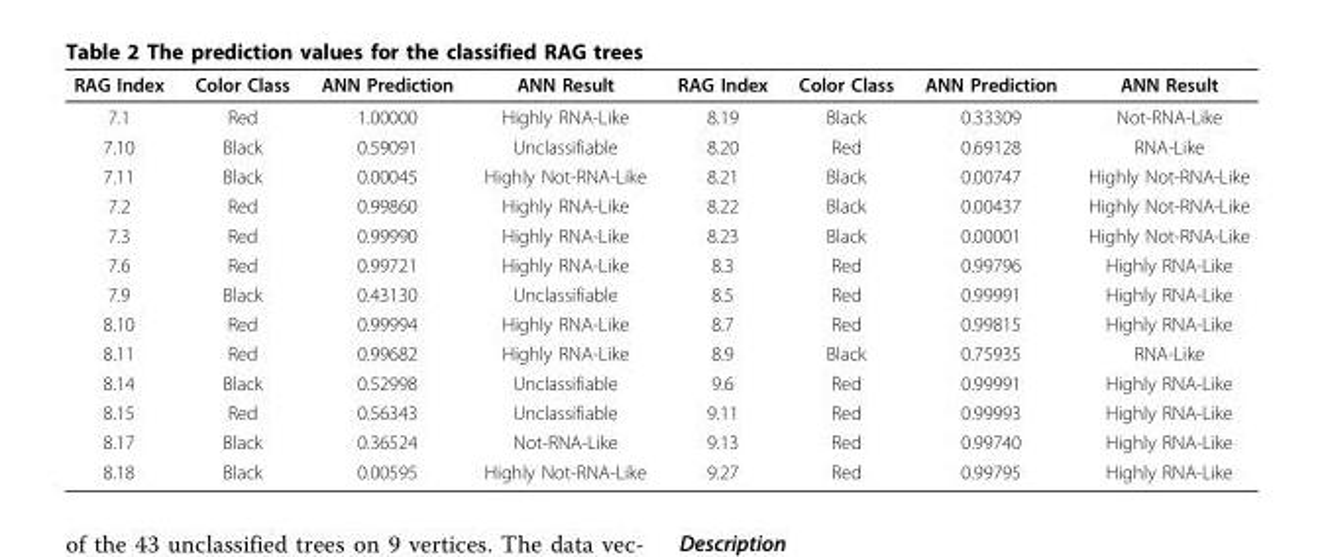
<table><thead><tr><td>RAG Index</td><td>Color Class</td><td>ANN Prediction</td><td>ANN Result</td><td>RAG Index</td><td>Color Class</td><td>ANN Prediction</td><td>ANN Result</td></tr></thead><tbody><tr><td>7.1</td><td>Red</td><td>1.00000</td><td>Highly RNA-Like</td><td>8.19</td><td>Black</td><td>0.33309</td><td>Not-RNA-Like</td></tr><tr><td>7.10</td><td>Black</td><td>0.59091</td><td>Unclassifiable</td><td>8.20</td><td>Red</td><td>0.69128</td><td>RNA-Like</td></tr><tr><td>7.11</td><td>Black</td><td>0.00045</td><td>Highly Not-RNA-Like</td><td>8.21</td><td>Black</td><td>0.00747</td><td>Highly Not-RNA-Like</td></tr><tr><td>7.2</td><td>Red</td><td>0.99860</td><td>Highly RNA-Like</td><td>8.22</td><td>Black</td><td>0.00437</td><td>Highly Not-RNA-Like</td></tr><tr><td>7.3</td><td>Red</td><td>0.99990</td><td>Highly RNA-Like</td><td>8.23</td><td>Black</td><td>0.00001</td><td>Highly Not-RNA-Like</td></tr><tr><td>7.6</td><td>Red</td><td>0.99721</td><td>Highly RNA-Like</td><td>8.3</td><td>Red</td><td>0.99796</td><td>Highly RNA-Like</td></tr><tr><td>7.9</td><td>Black</td><td>0.43130</td><td>Unclassifiable</td><td>8.5</td><td>Red</td><td>0.99991</td><td>Highly RNA-Like</td></tr><tr><td>8.10</td><td>Red</td><td>0.99994</td><td>Highly RNA-Like</td><td>8.7</td><td>Red</td><td>0.99815</td><td>Highly RNA-Like</td></tr><tr><td>8.11</td><td>Red</td><td>0.99682</td><td>Highly RNA-Like</td><td>8.9</td><td>Black</td><td>0.75935</td><td>RNA-Like</td></tr><tr><td>8.14</td><td>Black</td><td>0.52998</td><td>Unclassifiable</td><td>9.6</td><td>Red</td><td>0.99991</td><td>Highly RNA-Like</td></tr><tr><td>8.15</td><td>Red</td><td>0.56343</td><td>Unclassifiable</td><td>9.11</td><td>Red</td><td>0.99993</td><td>Highly RNA-Like</td></tr><tr><td>8.17</td><td>Black</td><td>0.36524</td><td>Not-RNA-Like</td><td>9.13</td><td>Red</td><td>0.99740</td><td>Highly RNA-Like</td></tr><tr><td>8.18</td><td>Black</td><td>0.00595</td><td>Highly Not-RNA-Like</td><td>9.27</td><td>Red</td><td>0.99795</td><td>Highly RNA-Like</td></tr></tbody></table>